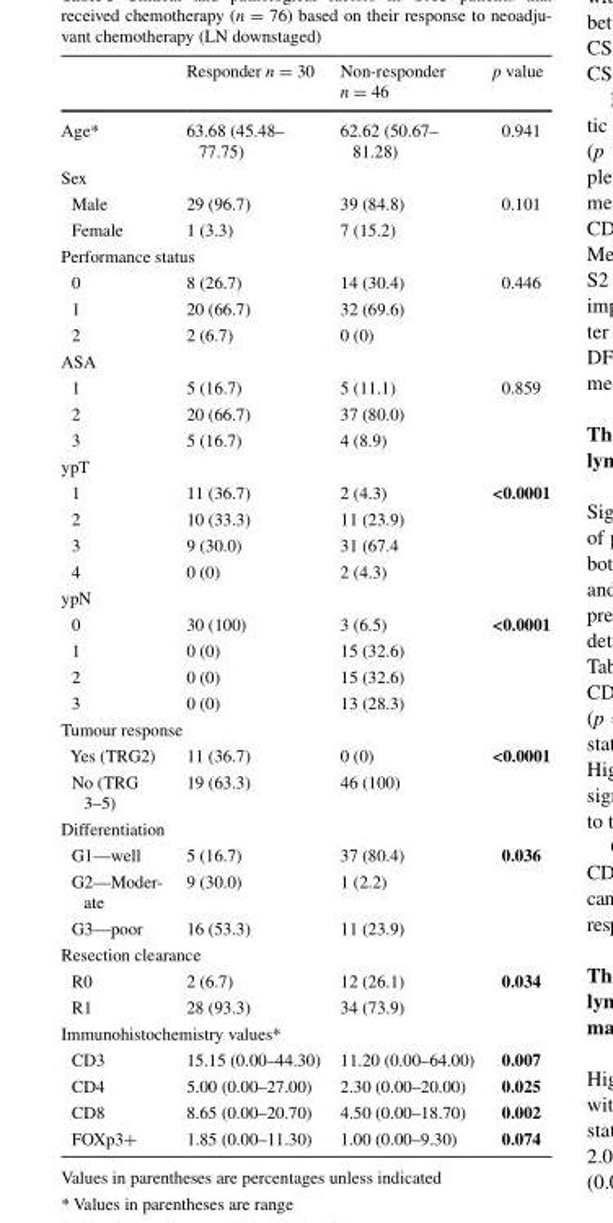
<table><thead><tr><td></td><td>Responder n = 30</td><td>Non-responder n = 46</td><td>p value</td></tr></thead><tbody><tr><td>Age*</td><td>63.68 (45.48– 77.75)</td><td>62.62 (50.67– 81.28)</td><td>0.941</td></tr><tr><td colspan="4">Sex</td></tr><tr><td>Male</td><td>29 (96.7)</td><td>39 (84.8)</td><td>0.101</td></tr><tr><td>Female</td><td>1 (3.3)</td><td>7 (15.2)</td><td></td></tr><tr><td colspan="4">Performance status</td></tr><tr><td>0</td><td>8 (26.7)</td><td>14 (30.4)</td><td>0.446</td></tr><tr><td>1</td><td>20 (66.7)</td><td>32 (69.6)</td><td></td></tr><tr><td>2</td><td>2 (6.7)</td><td>0 (0)</td><td></td></tr><tr><td colspan="4">ASA</td></tr><tr><td>1</td><td>5 (16.7)</td><td>5 (11.1)</td><td>0.859</td></tr><tr><td>2</td><td>20 (66.7)</td><td>37 (80.0)</td><td></td></tr><tr><td>3</td><td>5 (16.7)</td><td>4 (8.9)</td><td></td></tr><tr><td colspan="4">ypT</td></tr><tr><td>1</td><td>11 (36.7)</td><td>2 (4.3)</td><td>&lt;0.0001</td></tr><tr><td>2</td><td>10 (33.3)</td><td>11 (23.9)</td><td></td></tr><tr><td>3</td><td>9 (30.0)</td><td>31 (67.4</td><td></td></tr><tr><td>4</td><td>0 (0)</td><td>2 (4.3)</td><td></td></tr><tr><td colspan="4">ypN</td></tr><tr><td>0</td><td>30 (100)</td><td>3 (6.5)</td><td>&lt;0.0001</td></tr><tr><td>1</td><td>0 (0)</td><td>15 (32.6)</td><td></td></tr><tr><td>2</td><td>0 (0)</td><td>15 (32.6)</td><td></td></tr><tr><td>3</td><td>0 (0)</td><td>13 (28.3)</td><td></td></tr><tr><td colspan="4">Tumour response</td></tr><tr><td>Yes (TRG2)</td><td>11 (36.7)</td><td>0 (0)</td><td>&lt;0.0001</td></tr><tr><td>No (TRG 3–5)</td><td>19 (63.3)</td><td>46 (100)</td><td></td></tr><tr><td colspan="4">Differentiation</td></tr><tr><td>G1—well</td><td>5 (16.7)</td><td>37 (80.4)</td><td>0.036</td></tr><tr><td>G2—Moder- ate</td><td>9 (30.0)</td><td>1 (2.2)</td><td></td></tr><tr><td>G3—poor</td><td>16 (53.3)</td><td>11 (23.9)</td><td></td></tr><tr><td colspan="4">Resection clearance</td></tr><tr><td>R0</td><td>2 (6.7)</td><td>12 (26.1)</td><td>0.034</td></tr><tr><td>R1</td><td>28 (93.3)</td><td>34 (73.9)</td><td></td></tr><tr><td colspan="4">Immunohistochemistry values*</td></tr><tr><td>CD3</td><td>15.15 (0.00–44.30)</td><td>11.20 (0.00–64.00)</td><td>0.007</td></tr><tr><td>CD4</td><td>5.00 (0.00–27.00)</td><td>2.30 (0.00–20.00)</td><td>0.025</td></tr><tr><td>CD8</td><td>8.65 (0.00–20.70)</td><td>4.50 (0.00–18.70)</td><td>0.002</td></tr><tr><td>FOXp3+</td><td>1.85 (0.00–11.30)</td><td>1.00 (0.00–9.30)</td><td>0.074</td></tr></tbody></table>